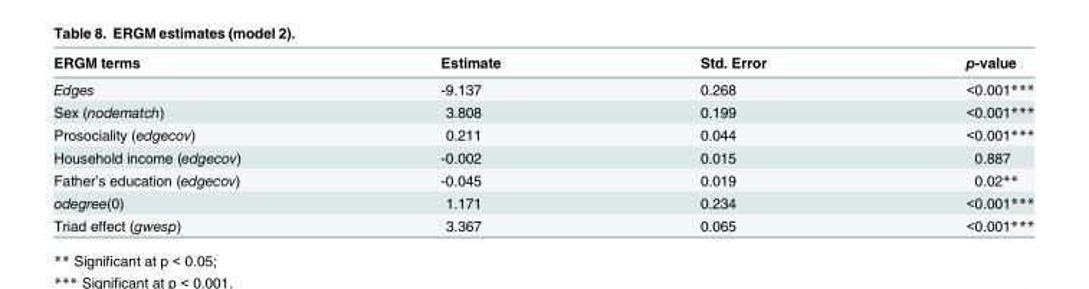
<table><thead><tr><td>ERGM terms</td><td>Estimate</td><td>Std. Error</td><td>p-value</td></tr></thead><tbody><tr><td>Edges</td><td>-9.137</td><td>0.268</td><td>&lt;0.001***</td></tr><tr><td>Sex (nodematch)</td><td>3.808</td><td>0.199</td><td>&lt;0.001***</td></tr><tr><td>Prosociality (edgecov)</td><td>0.211</td><td>0.044</td><td>&lt;0.001***</td></tr><tr><td>Household income (edgecov)</td><td>-0.002</td><td>0.015</td><td>0.887</td></tr><tr><td>Father’s education (edgecov)</td><td>-0.045</td><td>0.019</td><td>0.02**</td></tr><tr><td>odegree(0)</td><td>1.171</td><td>0.234</td><td>&lt;0.001***</td></tr><tr><td>Triad effect (gwesp)</td><td>3.367</td><td>0.065</td><td>&lt;0.001***</td></tr></tbody></table>